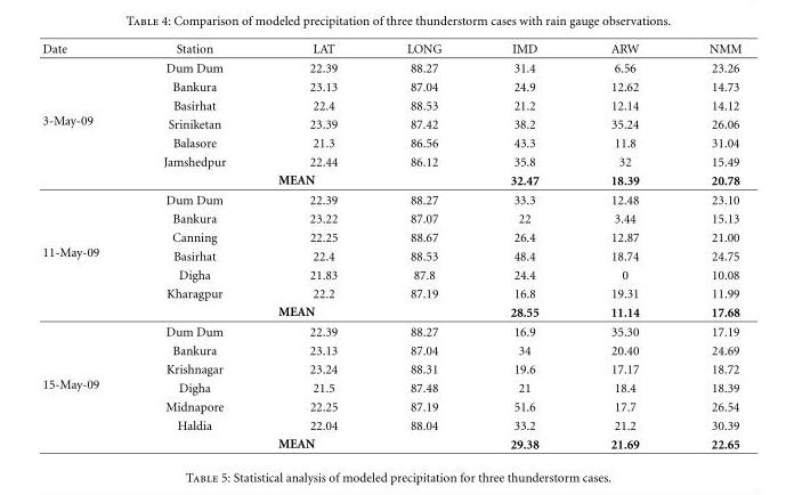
<table><thead><tr><td>Date</td><td>Station</td><td>LAT</td><td>LONG</td><td>IMD</td><td>ARW</td><td>NMM</td></tr></thead><tbody><tr><td rowspan="7">3-May-09</td><td>Dum Dum</td><td>22.39</td><td>88.27</td><td>31.4</td><td>6.56</td><td>23.26</td></tr><tr><td>Bankura</td><td>23.13</td><td>87.04</td><td>24.9</td><td>12.62</td><td>14.73</td></tr><tr><td>Basirhat</td><td>22.4</td><td>88.53</td><td>21.2</td><td>12.14</td><td>14.12</td></tr><tr><td>Sriniketan</td><td>23.39</td><td>87.42</td><td>38.2</td><td>35.24</td><td>26.06</td></tr><tr><td>Balasore</td><td>21.3</td><td>86.56</td><td>43.3</td><td>11.8</td><td>31.04</td></tr><tr><td>Jamshedpur</td><td>22.44</td><td>86.12</td><td>35.8</td><td>32</td><td>15.49</td></tr><tr><td colspan="3">MEAN</td><td>32.47</td><td>18.39</td><td>20.78</td></tr><tr><td rowspan="7">11-May-09</td><td>Dum Dum</td><td>22.39</td><td>88.27</td><td>33.3</td><td>12.48</td><td>23.10</td></tr><tr><td>Bankura</td><td>23.22</td><td>87.07</td><td>22</td><td>3.44</td><td>15.13</td></tr><tr><td>Canning</td><td>22.25</td><td>88.67</td><td>26.4</td><td>12.87</td><td>21.00</td></tr><tr><td>Basirhat</td><td>22.4</td><td>88.53</td><td>48.4</td><td>18.74</td><td>24.75</td></tr><tr><td>Digha</td><td>21.83</td><td>87.8</td><td>24.4</td><td>0</td><td>10.08</td></tr><tr><td>Kharagpur</td><td>22.2</td><td>87.19</td><td>16.8</td><td>19.31</td><td>11.99</td></tr><tr><td colspan="3">MEAN</td><td>28.55</td><td>11.14</td><td>17.68</td></tr><tr><td rowspan="7">15-May-09</td><td>Dum Dum</td><td>22.39</td><td>88.27</td><td>16.9</td><td>35.30</td><td>17.19</td></tr><tr><td>Bankura</td><td>23.13</td><td>87.04</td><td>34</td><td>20.40</td><td>24.69</td></tr><tr><td>Krishnagar</td><td>23.24</td><td>88.31</td><td>19.6</td><td>17.17</td><td>18.72</td></tr><tr><td>Digha</td><td>21.5</td><td>87.48</td><td>21</td><td>18.4</td><td>18.39</td></tr><tr><td>Midnapore</td><td>22.25</td><td>87.19</td><td>51.6</td><td>17.7</td><td>26.54</td></tr><tr><td>Haldia</td><td>22.04</td><td>88.04</td><td>33.2</td><td>21.2</td><td>30.39</td></tr><tr><td colspan="3">MEAN</td><td>29.38</td><td>21.69</td><td>22.65</td></tr></tbody></table>